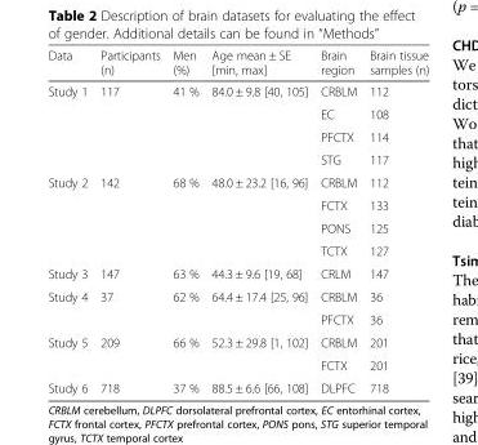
<table><thead><tr><td>Data</td><td>Participants (n)</td><td>Men (%)</td><td>Age mean ± SE [min, max]</td><td>Brain region</td><td>Brain tissue samples (n)</td></tr></thead><tbody><tr><td rowspan="4">Study 1</td><td rowspan="4">117</td><td rowspan="4">41 %</td><td rowspan="4">84.0 ± 9.8 [40, 105]</td><td>CRBLM</td><td>112</td></tr><tr><td>EC</td><td>108</td></tr><tr><td>PFCTX</td><td>114</td></tr><tr><td>STG</td><td>117</td></tr><tr><td rowspan="4">Study 2</td><td rowspan="4">142</td><td rowspan="4">68 %</td><td rowspan="4">48.0 ± 23.2 [16, 96]</td><td>CRBLM</td><td>112</td></tr><tr><td>FCTX</td><td>133</td></tr><tr><td>PONS</td><td>125</td></tr><tr><td>TCTX</td><td>127</td></tr><tr><td>Study 3</td><td>147</td><td>63 %</td><td>44.3 ± 9.6 [19, 68]</td><td>CRLM</td><td>147</td></tr><tr><td rowspan="2">Study 4</td><td rowspan="2">37</td><td rowspan="2">62 %</td><td rowspan="2">64.4 ± 17.4 [25, 96]</td><td>CRBLM</td><td>36</td></tr><tr><td>PFCTX</td><td>36</td></tr><tr><td rowspan="2">Study 5</td><td rowspan="2">209</td><td rowspan="2">66 %</td><td rowspan="2">52.3 ± 29.8 [1, 102]</td><td>CRBLM</td><td>201</td></tr><tr><td>FCTX</td><td>201</td></tr><tr><td>Study 6</td><td>718</td><td>37 %</td><td>88.5 ± 6.6 [66, 108]</td><td>DLPFC</td><td>718</td></tr></tbody></table>